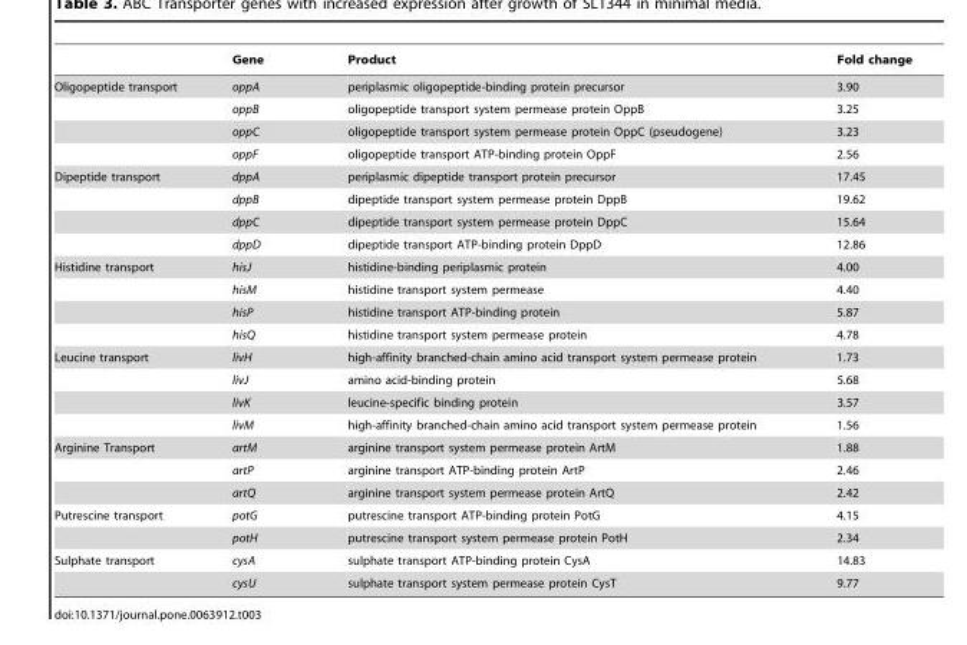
<table><thead><tr><td></td><td>Gene</td><td>Product</td><td>Fold change</td></tr></thead><tbody><tr><td rowspan="4">Oligopeptide transport</td><td>oppA</td><td>periplasmic oligopeptide-binding protein precursor</td><td>3.90</td></tr><tr><td>oppB</td><td>oligopeptide transport system permease protein OppB</td><td>3.25</td></tr><tr><td>oppC</td><td>oligopeptide transport system permease protein OppC (pseudogene)</td><td>3.23</td></tr><tr><td>oppF</td><td>oligopeptide transport ATP-binding protein OppF</td><td>2.56</td></tr><tr><td rowspan="4">Dipeptide transport</td><td>dppA</td><td>periplasmic dipeptide transport protein precursor</td><td>17.45</td></tr><tr><td>dppB</td><td>dipeptide transport system permease protein DppB</td><td>19.62</td></tr><tr><td>dppC</td><td>dipeptide transport system permease protein DppC</td><td>15.64</td></tr><tr><td>dppD</td><td>dipeptide transport ATP-binding protein DppD</td><td>12.86</td></tr><tr><td rowspan="4">Histidine transport</td><td>hisJ</td><td>histidine-binding periplasmic protein</td><td>4.00</td></tr><tr><td>hisM</td><td>histidine transport system permease</td><td>4.40</td></tr><tr><td>hisP</td><td>histidine transport ATP-binding protein</td><td>5.87</td></tr><tr><td>hisQ</td><td>histidine transport system permease protein</td><td>4.78</td></tr><tr><td rowspan="4">Leucine transport</td><td>livH</td><td>high-affinity branched-chain amino acid transport system permease protein</td><td>1.73</td></tr><tr><td>livJ</td><td>amino acid-binding protein</td><td>5.68</td></tr><tr><td>livK</td><td>leucine-specific binding protein</td><td>3.57</td></tr><tr><td>livM</td><td>high-affinity branched-chain amino acid transport system permease protein</td><td>1.56</td></tr><tr><td rowspan="3">Arginine Transport</td><td>artM</td><td>arginine transport system permease protein ArtM</td><td>1.88</td></tr><tr><td>artP</td><td>arginine transport ATP-binding protein ArtP</td><td>2.46</td></tr><tr><td>artQ</td><td>arginine transport system permease protein ArtQ</td><td>2.42</td></tr><tr><td rowspan="2">Putrescine transport</td><td>potG</td><td>putrescine transport ATP-binding protein PotG</td><td>4.15</td></tr><tr><td>potH</td><td>putrescine transport system permease protein PotH</td><td>2.34</td></tr><tr><td rowspan="2">Sulphate transport</td><td>cysA</td><td>sulphate transport ATP-binding protein CysA</td><td>14.83</td></tr><tr><td>cysU</td><td>sulphate transport system permease protein CysT</td><td>9.77</td></tr></tbody></table>